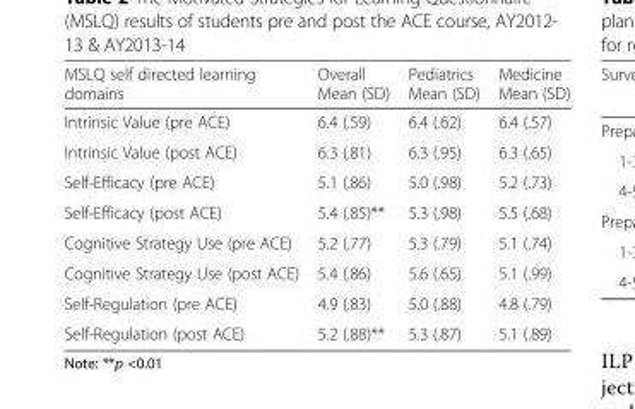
<table><thead><tr><td>MSLQ self directed learning domains</td><td>Overall Mean (SD)</td><td>Pediatrics Mean (SD)</td><td>Medicine Mean (SD)</td></tr></thead><tbody><tr><td>Intrinsic Value (pre ACE)</td><td>6.4 (.59)</td><td>6.4 (.62)</td><td>6.4 (.57)</td></tr><tr><td>Intrinsic Value (post ACE)</td><td>6.3 (.81)</td><td>6.3 (.95)</td><td>6.3 (.65)</td></tr><tr><td>Self-Efficacy (pre ACE)</td><td>5.1 (.86)</td><td>5.0 (.98)</td><td>5.2 (.73)</td></tr><tr><td>Self-Efficacy (post ACE)</td><td>5.4 (.85)**</td><td>5.3 (.98)</td><td>5.5 (.68)</td></tr><tr><td>Cognitive Strategy Use (pre ACE)</td><td>5.2 (.77)</td><td>5.3 (.79)</td><td>5.1 (.74)</td></tr><tr><td>Cognitive Strategy Use (post ACE)</td><td>5.4 (.86)</td><td>5.6 (.65)</td><td>5.1 (.99)</td></tr><tr><td>Self-Regulation (pre ACE)</td><td>4.9 (.83)</td><td>5.0 (.88)</td><td>4.8 (.79)</td></tr><tr><td>Self-Regulation (post ACE)</td><td>5.2 (.88)**</td><td>5.3 (.87)</td><td>5.1 (.89)</td></tr></tbody></table>